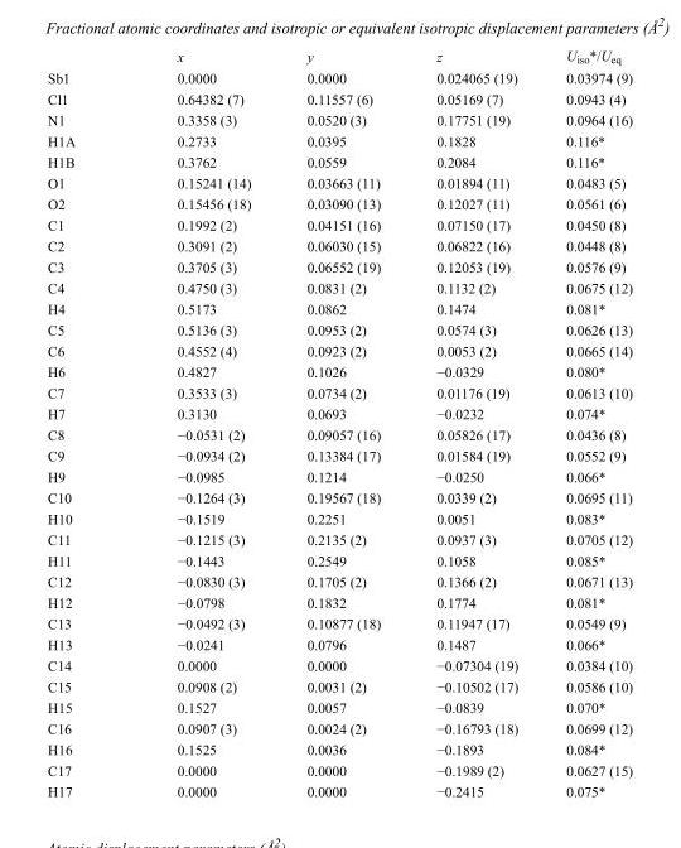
<table><thead><tr><td></td><td>x</td><td>y</td><td>z</td><td>U<sub>iso</sub>*/U<sub>eq</sub></td></tr></thead><tbody><tr><td>Sb1</td><td>0.0000</td><td>0.0000</td><td>0.024065 (19)</td><td>0.03974 (9)</td></tr><tr><td>Cl1</td><td>0.64382 (7)</td><td>0.11557 (6)</td><td>0.05169 (7)</td><td>0.0943 (4)</td></tr><tr><td>N1</td><td>0.3358 (3)</td><td>0.0520 (3)</td><td>0.17751 (19)</td><td>0.0964 (16)</td></tr><tr><td>H1A</td><td>0.2733</td><td>0.0395</td><td>0.1828</td><td>0.116*</td></tr><tr><td>H1B</td><td>0.3762</td><td>0.0559</td><td>0.2084</td><td>0.116*</td></tr><tr><td>O1</td><td>0.15241 (14)</td><td>0.03663 (11)</td><td>0.01894 (11)</td><td>0.0483 (5)</td></tr><tr><td>O2</td><td>0.15456 (18)</td><td>0.03090 (13)</td><td>0.12027 (11)</td><td>0.0561 (6)</td></tr><tr><td>C1</td><td>0.1992 (2)</td><td>0.04151 (16)</td><td>0.07150 (17)</td><td>0.0450 (8)</td></tr><tr><td>C2</td><td>0.3091 (2)</td><td>0.06030 (15)</td><td>0.06822 (16)</td><td>0.0448 (8)</td></tr><tr><td>C3</td><td>0.3705 (3)</td><td>0.06552 (19)</td><td>0.12053 (19)</td><td>0.0576 (9)</td></tr><tr><td>C4</td><td>0.4750 (3)</td><td>0.0831 (2)</td><td>0.1132 (2)</td><td>0.0675 (12)</td></tr><tr><td>H4</td><td>0.5173</td><td>0.0862</td><td>0.1474</td><td>0.081*</td></tr><tr><td>C5</td><td>0.5136 (3)</td><td>0.0953 (2)</td><td>0.0574 (3)</td><td>0.0626 (13)</td></tr><tr><td>C6</td><td>0.4552 (4)</td><td>0.0923 (2)</td><td>0.0053 (2)</td><td>0.0665 (14)</td></tr><tr><td>H6</td><td>0.4827</td><td>0.1026</td><td>−0.0329</td><td>0.080*</td></tr><tr><td>C7</td><td>0.3533 (3)</td><td>0.0734 (2)</td><td>0.01176 (19)</td><td>0.0613 (10)</td></tr><tr><td>H7</td><td>0.3130</td><td>0.0693</td><td>−0.0232</td><td>0.074*</td></tr><tr><td>C8</td><td>−0.0531 (2)</td><td>0.09057 (16)</td><td>0.05826 (17)</td><td>0.0436 (8)</td></tr><tr><td>C9</td><td>−0.0934 (2)</td><td>0.13384 (17)</td><td>0.01584 (19)</td><td>0.0552 (9)</td></tr><tr><td>H9</td><td>−0.0985</td><td>0.1214</td><td>−0.0250</td><td>0.066*</td></tr><tr><td>C10</td><td>−0.1264 (3)</td><td>0.19567 (18)</td><td>0.0339 (2)</td><td>0.0695 (11)</td></tr><tr><td>H10</td><td>−0.1519</td><td>0.2251</td><td>0.0051</td><td>0.083*</td></tr><tr><td>C11</td><td>−0.1215 (3)</td><td>0.2135 (2)</td><td>0.0937 (3)</td><td>0.0705 (12)</td></tr><tr><td>H11</td><td>−0.1443</td><td>0.2549</td><td>0.1058</td><td>0.085*</td></tr><tr><td>C12</td><td>−0.0830 (3)</td><td>0.1705 (2)</td><td>0.1366 (2)</td><td>0.0671 (13)</td></tr><tr><td>H12</td><td>−0.0798</td><td>0.1832</td><td>0.1774</td><td>0.081*</td></tr><tr><td>C13</td><td>−0.0492 (3)</td><td>0.10877 (18)</td><td>0.11947 (17)</td><td>0.0549 (9)</td></tr><tr><td>H13</td><td>−0.0241</td><td>0.0796</td><td>0.1487</td><td>0.066*</td></tr><tr><td>C14</td><td>0.0000</td><td>0.0000</td><td>−0.07304 (19)</td><td>0.0384 (10)</td></tr><tr><td>C15</td><td>0.0908 (2)</td><td>0.0031 (2)</td><td>−0.10502 (17)</td><td>0.0586 (10)</td></tr><tr><td>H15</td><td>0.1527</td><td>0.0057</td><td>−0.0839</td><td>0.070*</td></tr><tr><td>C16</td><td>0.0907 (3)</td><td>0.0024 (2)</td><td>−0.16793 (18)</td><td>0.0699 (12)</td></tr><tr><td>H16</td><td>0.1525</td><td>0.0036</td><td>−0.1893</td><td>0.084*</td></tr><tr><td>C17</td><td>0.0000</td><td>0.0000</td><td>−0.1989 (2)</td><td>0.0627 (15)</td></tr><tr><td>H17</td><td>0.0000</td><td>0.0000</td><td>−0.2415</td><td>0.075*</td></tr></tbody></table>